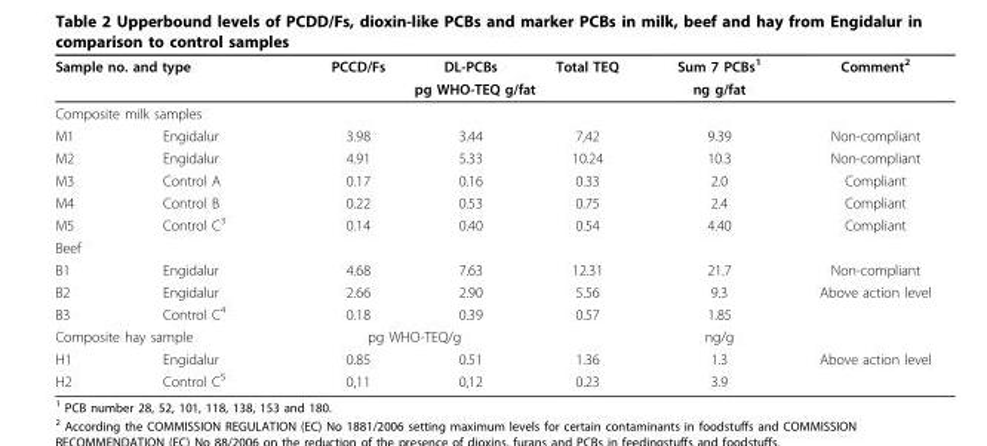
<table><tbody><tr><td colspan="2">Sample no. and type</td><td>PCCD/Fs</td><td>DL-PCBs</td><td>Total TEQ</td><td>Sum 7 PCBs<sup>1</sup></td><td>Comment<sup>2</sup></td></tr><tr><td></td><td></td><td colspan="3">pg WHO-TEQ g/fat</td><td>ng g/fat</td><td></td></tr><tr><td colspan="7">Composite milk samples</td></tr><tr><td>M1</td><td>Engidalur</td><td>3.98</td><td>3.44</td><td>7,42</td><td>9.39</td><td>Non-compliant</td></tr><tr><td>M2</td><td>Engidalur</td><td>4.91</td><td>5.33</td><td>10.24</td><td>10.3</td><td>Non-compliant</td></tr><tr><td>M3</td><td>Control A</td><td>0.17</td><td>0.16</td><td>0.33</td><td>2.0</td><td>Compliant</td></tr><tr><td>M4</td><td>Control B</td><td>0.22</td><td>0.53</td><td>0.75</td><td>2.4</td><td>Compliant</td></tr><tr><td>M5</td><td>Control C<sup>3</sup></td><td>0.14</td><td>0.40</td><td>0.54</td><td>4.40</td><td>Compliant</td></tr><tr><td colspan="7">Beef</td></tr><tr><td>B1</td><td>Engidalur</td><td>4.68</td><td>7.63</td><td>12.31</td><td>21.7</td><td>Non-compliant</td></tr><tr><td>B2</td><td>Engidalur</td><td>2.66</td><td>2.90</td><td>5.56</td><td>9.3</td><td>Above action level</td></tr><tr><td>B3</td><td>Control C<sup>4</sup></td><td>0.18</td><td>0.39</td><td>0.57</td><td>1.85</td><td></td></tr><tr><td colspan="2">Composite hay sample</td><td colspan="2">pg WHO-TEQ/g</td><td></td><td>ng/g</td><td></td></tr><tr><td>H1</td><td>Engidalur</td><td>0.85</td><td>0.51</td><td>1.36</td><td>1.3</td><td>Above action level</td></tr><tr><td>H2</td><td>Control C<sup>5</sup></td><td>0,11</td><td>0,12</td><td>0.23</td><td>3.9</td><td></td></tr></tbody></table>